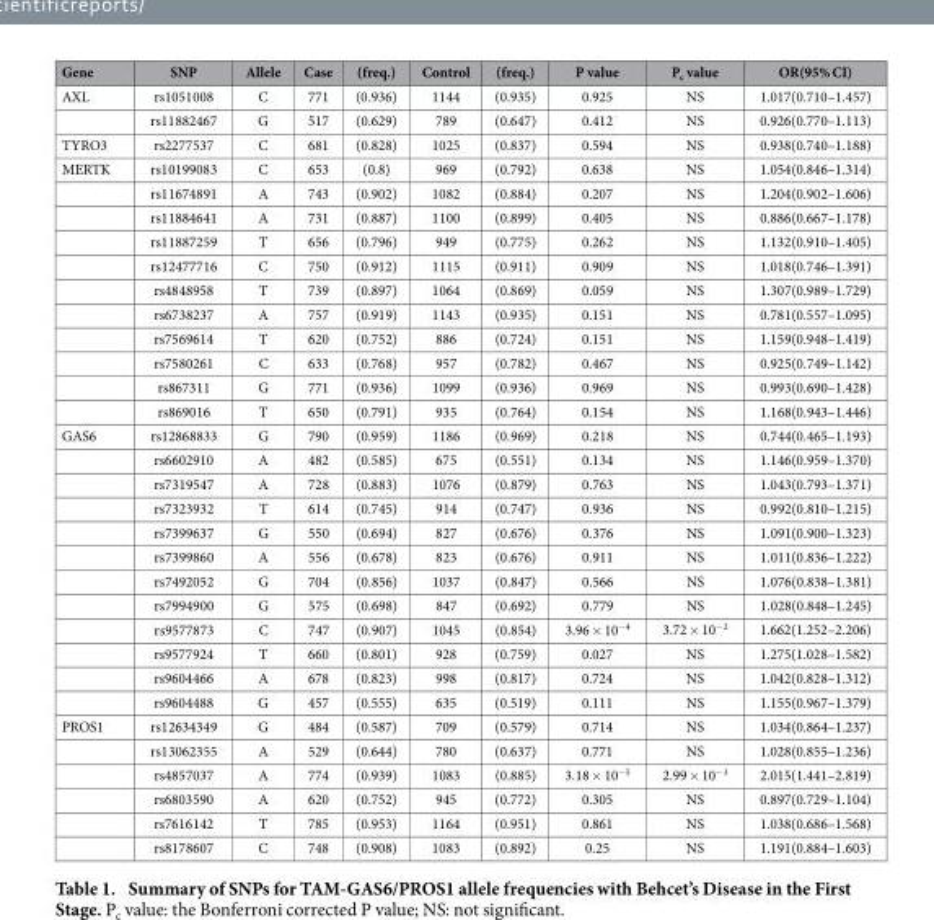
<table><thead><tr><td>Gene</td><td>SNP</td><td>Allele</td><td>Case</td><td>(freq.)</td><td>Control</td><td>(freq.)</td><td>P value</td><td>P<sub>c</sub> value</td><td>OR(95% CI)</td></tr></thead><tbody><tr><td rowspan="2">AXL</td><td>rs1051008</td><td>C</td><td>771</td><td>(0.936)</td><td>1144</td><td>(0.935)</td><td>0.925</td><td>NS</td><td>1.017(0.710–1.457)</td></tr><tr><td>rs11882467</td><td>G</td><td>517</td><td>(0.629)</td><td>789</td><td>(0.647)</td><td>0.412</td><td>NS</td><td>0.926(0.770–1.113)</td></tr><tr><td>TYRO3</td><td>rs2277537</td><td>C</td><td>681</td><td>(0.828)</td><td>1025</td><td>(0.837)</td><td>0.594</td><td>NS</td><td>0.938(0.740–1.188)</td></tr><tr><td rowspan="11">MERTK</td><td>rs10199083</td><td>C</td><td>653</td><td>(0.8)</td><td>969</td><td>(0.792)</td><td>0.638</td><td>NS</td><td>1.054(0.846–1.314)</td></tr><tr><td>rs11674891</td><td>A</td><td>743</td><td>(0.902)</td><td>1082</td><td>(0.884)</td><td>0.207</td><td>NS</td><td>1.204(0.902–1.606)</td></tr><tr><td>rs11884641</td><td>A</td><td>731</td><td>(0.887)</td><td>1100</td><td>(0.899)</td><td>0.405</td><td>NS</td><td>0.886(0.667–1.178)</td></tr><tr><td>rs11887259</td><td>T</td><td>656</td><td>(0.796)</td><td>949</td><td>(0.775)</td><td>0.262</td><td>NS</td><td>1.132(0.910–1.405)</td></tr><tr><td>rs12477716</td><td>C</td><td>750</td><td>(0.912)</td><td>1115</td><td>(0.911)</td><td>0.909</td><td>NS</td><td>1.018(0.746–1.391)</td></tr><tr><td>rs4848958</td><td>T</td><td>739</td><td>(0.897)</td><td>1064</td><td>(0.869)</td><td>0.059</td><td>NS</td><td>1.307(0.989–1.729)</td></tr><tr><td>rs6738237</td><td>A</td><td>757</td><td>(0.919)</td><td>1143</td><td>(0.935)</td><td>0.151</td><td>NS</td><td>0.781(0.557–1.095)</td></tr><tr><td>rs7569614</td><td>T</td><td>620</td><td>(0.752)</td><td>886</td><td>(0.724)</td><td>0.151</td><td>NS</td><td>1.159(0.948–1.419)</td></tr><tr><td>rs7580261</td><td>C</td><td>633</td><td>(0.768)</td><td>957</td><td>(0.782)</td><td>0.467</td><td>NS</td><td>0.925(0.749–1.142)</td></tr><tr><td>rs867311</td><td>G</td><td>771</td><td>(0.936)</td><td>1099</td><td>(0.936)</td><td>0.969</td><td>NS</td><td>0.993(0.690–1.428)</td></tr><tr><td>rs869016</td><td>T</td><td>650</td><td>(0.791)</td><td>935</td><td>(0.764)</td><td>0.154</td><td>NS</td><td>1.168(0.943–1.446)</td></tr><tr><td rowspan="12">GAS6</td><td>rs12868833</td><td>G</td><td>790</td><td>(0.959)</td><td>1186</td><td>(0.969)</td><td>0.218</td><td>NS</td><td>0.744(0.465–1.193)</td></tr><tr><td>rs6602910</td><td>A</td><td>482</td><td>(0.585)</td><td>675</td><td>(0.551)</td><td>0.134</td><td>NS</td><td>1.146(0.959–1.370)</td></tr><tr><td>rs7319547</td><td>A</td><td>728</td><td>(0.883)</td><td>1076</td><td>(0.879)</td><td>0.763</td><td>NS</td><td>1.043(0.793–1.371)</td></tr><tr><td>rs7323932</td><td>T</td><td>614</td><td>(0.745)</td><td>914</td><td>(0.747)</td><td>0.936</td><td>NS</td><td>0.992(0.810–1.215)</td></tr><tr><td>rs7399637</td><td>G</td><td>550</td><td>(0.694)</td><td>827</td><td>(0.676)</td><td>0.376</td><td>NS</td><td>1.091(0.900–1.323)</td></tr><tr><td>rs7399860</td><td>A</td><td>556</td><td>(0.678)</td><td>823</td><td>(0.676)</td><td>0.911</td><td>NS</td><td>1.011(0.836–1.222)</td></tr><tr><td>rs7492052</td><td>G</td><td>704</td><td>(0.856)</td><td>1037</td><td>(0.847)</td><td>0.566</td><td>NS</td><td>1.076(0.838–1.381)</td></tr><tr><td>rs7994900</td><td>G</td><td>575</td><td>(0.698)</td><td>847</td><td>(0.692)</td><td>0.779</td><td>NS</td><td>1.028(0.848–1.245)</td></tr><tr><td>rs9577873</td><td>C</td><td>747</td><td>(0.907)</td><td>1045</td><td>(0.854)</td><td>3.96 × 10<sup>−4</sup></td><td>3.72 × 10<sup>−2</sup></td><td>1.662(1.252–2.206)</td></tr><tr><td>rs9577924</td><td>T</td><td>660</td><td>(0.801)</td><td>928</td><td>(0.759)</td><td>0.027</td><td>NS</td><td>1.275(1.028–1.582)</td></tr><tr><td>rs9604466</td><td>A</td><td>678</td><td>(0.823)</td><td>998</td><td>(0.817)</td><td>0.724</td><td>NS</td><td>1.042(0.828–1.312)</td></tr><tr><td>rs9604488</td><td>G</td><td>457</td><td>(0.555)</td><td>635</td><td>(0.519)</td><td>0.111</td><td>NS</td><td>1.155(0.967–1.379)</td></tr><tr><td rowspan="6">PROS1</td><td>rs12634349</td><td>G</td><td>484</td><td>(0.587)</td><td>709</td><td>(0.579)</td><td>0.714</td><td>NS</td><td>1.034(0.864–1.237)</td></tr><tr><td>rs13062355</td><td>A</td><td>529</td><td>(0.644)</td><td>780</td><td>(0.637)</td><td>0.771</td><td>NS</td><td>1.028(0.855–1.236)</td></tr><tr><td>rs4857037</td><td>A</td><td>774</td><td>(0.939)</td><td>1083</td><td>(0.885)</td><td>3.18 × 10<sup>−5</sup></td><td>2.99 × 10<sup>−3</sup></td><td>2.015(1.441–2.819)</td></tr><tr><td>rs6803590</td><td>A</td><td>620</td><td>(0.752)</td><td>945</td><td>(0.772)</td><td>0.305</td><td>NS</td><td>0.897(0.729–1.104)</td></tr><tr><td>rs7616142</td><td>T</td><td>785</td><td>(0.953)</td><td>1164</td><td>(0.951)</td><td>0.861</td><td>NS</td><td>1.038(0.686–1.568)</td></tr><tr><td>rs8178607</td><td>C</td><td>748</td><td>(0.908)</td><td>1083</td><td>(0.892)</td><td>0.25</td><td>NS</td><td>1.191(0.884–1.603)</td></tr></tbody></table>